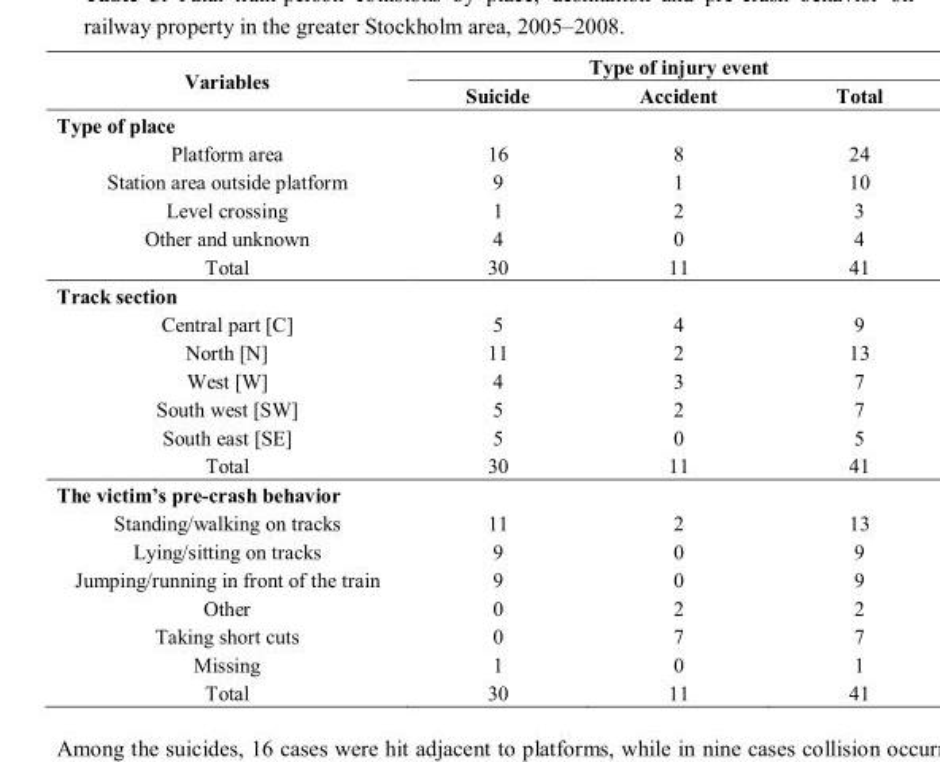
<table><thead><tr><td rowspan="2">Variables</td><td colspan="3">Type of injury event</td></tr><tr><td>Suicide</td><td>Accident</td><td>Total</td></tr></thead><tbody><tr><td colspan="4">Type of place</td></tr><tr><td>Platform area</td><td>16</td><td>8</td><td>24</td></tr><tr><td>Station area outside platform</td><td>9</td><td>1</td><td>10</td></tr><tr><td>Level crossing</td><td>1</td><td>2</td><td>3</td></tr><tr><td>Other and unknown</td><td>4</td><td>0</td><td>4</td></tr><tr><td>Total</td><td>30</td><td>11</td><td>41</td></tr><tr><td colspan="4">Track section</td></tr><tr><td>Central part [C]</td><td>5</td><td>4</td><td>9</td></tr><tr><td>North [N]</td><td>11</td><td>2</td><td>13</td></tr><tr><td>West [W]</td><td>4</td><td>3</td><td>7</td></tr><tr><td>South west [SW]</td><td>5</td><td>2</td><td>7</td></tr><tr><td>South east [SE]</td><td>5</td><td>0</td><td>5</td></tr><tr><td>Total</td><td>30</td><td>11</td><td>41</td></tr><tr><td colspan="4">The victim’s pre-crash behavior</td></tr><tr><td>Standing/walking on tracks</td><td>11</td><td>2</td><td>13</td></tr><tr><td>Lying/sitting on tracks</td><td>9</td><td>0</td><td>9</td></tr><tr><td>Jumping/running in front of the train</td><td>9</td><td>0</td><td>9</td></tr><tr><td>Other</td><td>0</td><td>2</td><td>2</td></tr><tr><td>Taking short cuts</td><td>0</td><td>7</td><td>7</td></tr><tr><td>Missing</td><td>1</td><td>0</td><td>1</td></tr><tr><td>Total</td><td>30</td><td>11</td><td>41</td></tr></tbody></table>